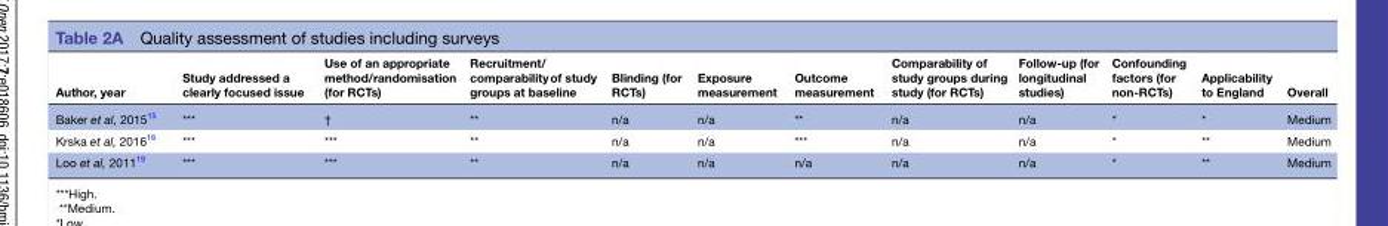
<table><thead><tr><td>Author, year</td><td>Study addressed a clearly focused issue</td><td>Use of an appropriate method/randomisation (for RCTs)</td><td>Recruitment/ comparability of study groups at baseline</td><td>Blinding (for RCTs)</td><td>Exposure measurement</td><td>Outcome measurement</td><td>Comparability of study groups during study (for RCTs)</td><td>Follow-up (for longitudinal studies)</td><td>Confounding factors (for non-RCTs)</td><td>Applicability to England</td><td>Overall</td></tr></thead><tbody><tr><td>Baker et al, 2015<sup>15</sup></td><td>***</td><td>†</td><td>**</td><td>n/a</td><td>n/a</td><td>**</td><td>n/a</td><td>n/a</td><td>*</td><td>*</td><td>Medium</td></tr><tr><td>Krska et al, 2016<sup>18</sup></td><td>***</td><td>***</td><td>**</td><td>n/a</td><td>n/a</td><td>***</td><td>n/a</td><td>n/a</td><td>*</td><td>**</td><td>Medium</td></tr><tr><td>Loo et al, 2011<sup>19</sup></td><td>***</td><td>***</td><td>**</td><td>n/a</td><td>n/a</td><td>n/a</td><td>n/a</td><td>n/a</td><td>*</td><td>**</td><td>Medium</td></tr></tbody></table>